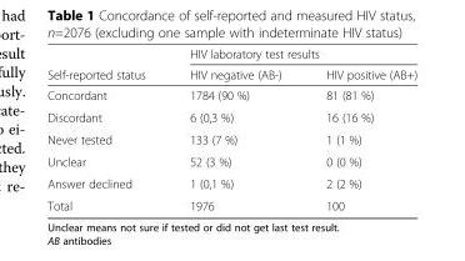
<table><thead><tr><td rowspan="2">Self-reported status</td><td colspan="2">HIV laboratory test results</td></tr><tr><td>HIV negative (AB-)</td><td>HIV positive (AB+)</td></tr></thead><tbody><tr><td>Concordant</td><td>1784 (90 %)</td><td>81 (81 %)</td></tr><tr><td>Discordant</td><td>6 (0,3 %)</td><td>16 (16 %)</td></tr><tr><td>Never tested</td><td>133 (7 %)</td><td>1 (1 %)</td></tr><tr><td>Unclear</td><td>52 (3 %)</td><td>0 (0 %)</td></tr><tr><td>Answer declined</td><td>1 (0,1 %)</td><td>2 (2 %)</td></tr><tr><td>Total</td><td>1976</td><td>100</td></tr></tbody></table>